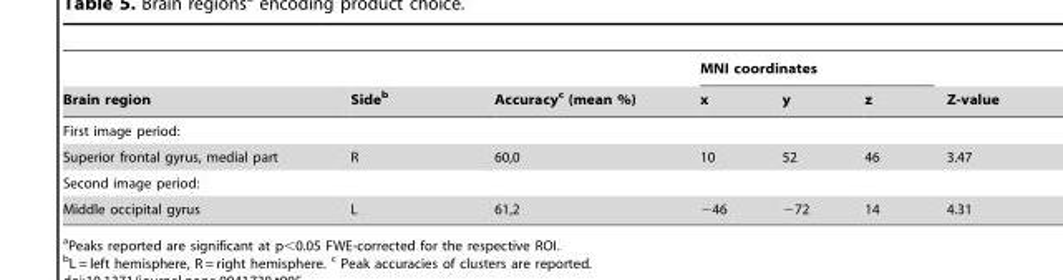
<table><thead><tr><td rowspan="2">Brain region</td><td rowspan="2">Side<sup>b</sup></td><td rowspan="2">Accuracy<sup>c</sup> (mean %)</td><td colspan="3">MNI coordinates</td><td rowspan="2">Z-value</td></tr><tr><td>x</td><td>y</td><td>z</td></tr></thead><tbody><tr><td colspan="7">First image period:</td></tr><tr><td>Superior frontal gyrus, medial part</td><td>R</td><td>60,0</td><td>10</td><td>52</td><td>46</td><td>3.47</td></tr><tr><td colspan="7">Second image period:</td></tr><tr><td>Middle occipital gyrus</td><td>L</td><td>61,2</td><td>−46</td><td>−72</td><td>14</td><td>4.31</td></tr></tbody></table>